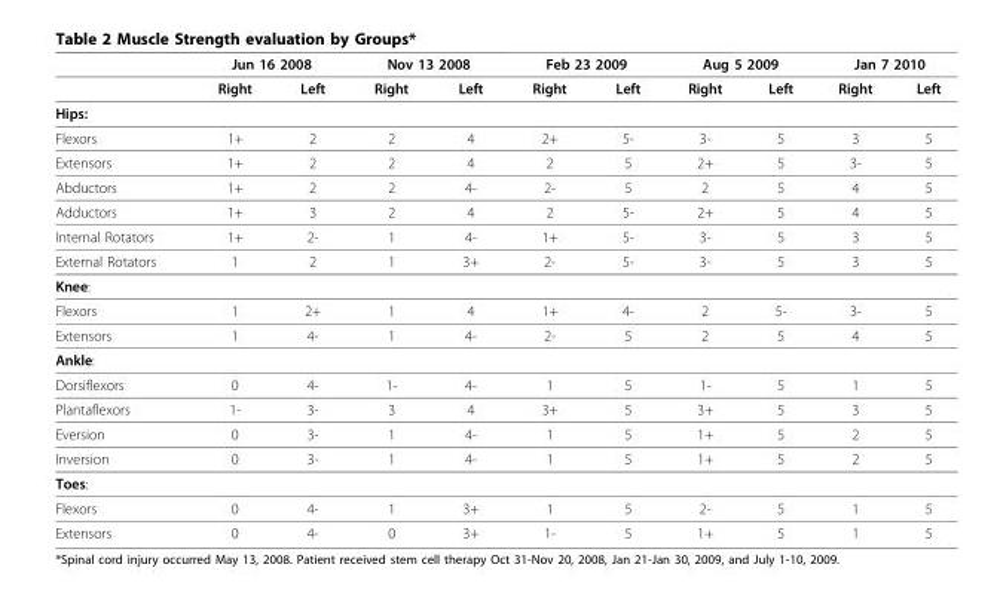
<table><thead><tr><td rowspan="2"></td><td colspan="2">Jun 16 2008</td><td colspan="2">Nov 13 2008</td><td colspan="2">Feb 23 2009</td><td colspan="2">Aug 5 2009</td><td colspan="2">Jan 7 2010</td></tr><tr><td>Right</td><td>Left</td><td>Right</td><td>Left</td><td>Right</td><td>Left</td><td>Right</td><td>Left</td><td>Right</td><td>Left</td></tr></thead><tbody><tr><td colspan="11">Hips:</td></tr><tr><td>Flexors</td><td>1+</td><td>2</td><td>2</td><td>4</td><td>2+</td><td>5-</td><td>3-</td><td>5</td><td>3</td><td>5</td></tr><tr><td>Extensors</td><td>1+</td><td>2</td><td>2</td><td>4</td><td>2</td><td>5</td><td>2+</td><td>5</td><td>3-</td><td>5</td></tr><tr><td>Abductors</td><td>1+</td><td>2</td><td>2</td><td>4-</td><td>2-</td><td>5</td><td>2</td><td>5</td><td>4</td><td>5</td></tr><tr><td>Adductors</td><td>1+</td><td>3</td><td>2</td><td>4</td><td>2</td><td>5-</td><td>2+</td><td>5</td><td>4</td><td>5</td></tr><tr><td>Internal Rotators</td><td>1+</td><td>2-</td><td>1</td><td>4-</td><td>1+</td><td>5-</td><td>3-</td><td>5</td><td>3</td><td>5</td></tr><tr><td>External Rotators</td><td>1</td><td>2</td><td>1</td><td>3+</td><td>2-</td><td>5-</td><td>3-</td><td>5</td><td>3</td><td>5</td></tr><tr><td colspan="11">Knee:</td></tr><tr><td>Flexors</td><td>1</td><td>2+</td><td>1</td><td>4</td><td>1+</td><td>4-</td><td>2</td><td>5-</td><td>3-</td><td>5</td></tr><tr><td>Extensors</td><td>1</td><td>4-</td><td>1</td><td>4-</td><td>2-</td><td>5</td><td>2</td><td>5</td><td>4</td><td>5</td></tr><tr><td colspan="11">Ankle:</td></tr><tr><td>Dorsiflexors</td><td>0</td><td>4-</td><td>1-</td><td>4-</td><td>1</td><td>5</td><td>1-</td><td>5</td><td>1</td><td>5</td></tr><tr><td>Plantaflexors</td><td>1-</td><td>3-</td><td>3</td><td>4</td><td>3+</td><td>5</td><td>3+</td><td>5</td><td>3</td><td>5</td></tr><tr><td>Eversion</td><td>0</td><td>3-</td><td>1</td><td>4-</td><td>1</td><td>5</td><td>1+</td><td>5</td><td>2</td><td>5</td></tr><tr><td>Inversion</td><td>0</td><td>3-</td><td>1</td><td>4-</td><td>1</td><td>5</td><td>1+</td><td>5</td><td>2</td><td>5</td></tr><tr><td colspan="11">Toes:</td></tr><tr><td>Flexors</td><td>0</td><td>4-</td><td>1</td><td>3+</td><td>1</td><td>5</td><td>2-</td><td>5</td><td>1</td><td>5</td></tr><tr><td>Extensors</td><td>0</td><td>4-</td><td>0</td><td>3+</td><td>1-</td><td>5</td><td>1+</td><td>5</td><td>1</td><td>5</td></tr></tbody></table>